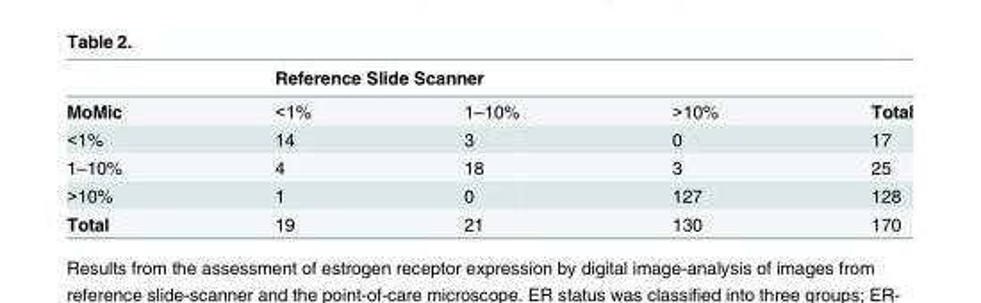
<table><thead><tr><td rowspan="2">MoMic</td><td colspan="3">Reference Slide Scanner</td><td rowspan="2">Total</td></tr><tr><td>&lt;1%</td><td>1–10%</td><td>&gt;10%</td></tr></thead><tbody><tr><td>&lt;1%</td><td>14</td><td>3</td><td>0</td><td>17</td></tr><tr><td>1–10%</td><td>4</td><td>18</td><td>3</td><td>25</td></tr><tr><td>&gt;10%</td><td>1</td><td>0</td><td>127</td><td>128</td></tr><tr><td>Total</td><td>19</td><td>21</td><td>130</td><td>170</td></tr></tbody></table>